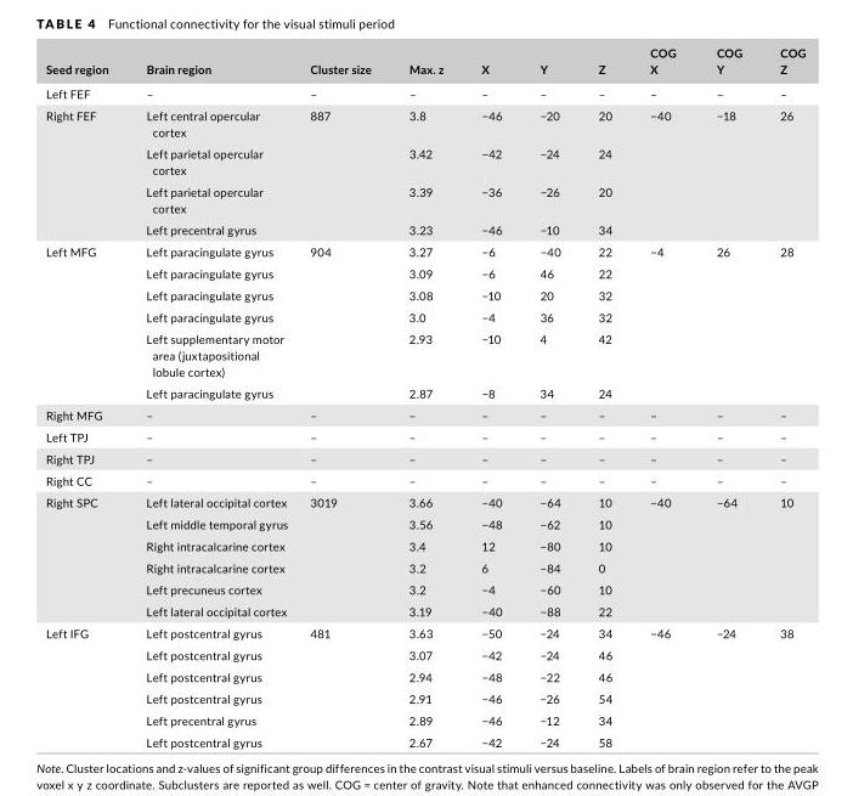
<table><thead><tr><td>Seed region</td><td>Brain region</td><td>Cluster size</td><td>Max. z</td><td>X</td><td>Y</td><td>Z</td><td>COG X</td><td>COG Y</td><td>COG Z</td></tr></thead><tbody><tr><td>Left FEF</td><td>–</td><td>–</td><td>–</td><td>–</td><td>–</td><td>–</td><td>–</td><td>–</td><td>–</td></tr><tr><td rowspan="4">Right FEF</td><td>Left central opercular cortex</td><td>887</td><td>3.8</td><td>−46</td><td>−20</td><td>20</td><td>−40</td><td>−18</td><td>26</td></tr><tr><td>Left parietal opercular cortex</td><td></td><td>3.42</td><td>−42</td><td>−24</td><td>24</td><td></td><td></td><td></td></tr><tr><td>Left parietal opercular cortex</td><td></td><td>3.39</td><td>−36</td><td>−26</td><td>20</td><td></td><td></td><td></td></tr><tr><td>Left precentral gyrus</td><td></td><td>3.23</td><td>−46</td><td>−10</td><td>34</td><td></td><td></td><td></td></tr><tr><td rowspan="6">Left MFG</td><td>Left paracingulate gyrus</td><td>904</td><td>3.27</td><td>−6</td><td>−40</td><td>22</td><td>−4</td><td>26</td><td>28</td></tr><tr><td>Left paracingulate gyrus</td><td></td><td>3.09</td><td>−6</td><td>46</td><td>22</td><td></td><td></td><td></td></tr><tr><td>Left paracingulate gyrus</td><td></td><td>3.08</td><td>−10</td><td>20</td><td>32</td><td></td><td></td><td></td></tr><tr><td>Left paracingulate gyrus</td><td></td><td>3.0</td><td>−4</td><td>36</td><td>32</td><td></td><td></td><td></td></tr><tr><td>Left supplementary motor area (juxtapositional lobule cortex)</td><td></td><td>2.93</td><td>−10</td><td>4</td><td>42</td><td></td><td></td><td></td></tr><tr><td>Left paracingulate gyrus</td><td></td><td>2.87</td><td>−8</td><td>34</td><td>24</td><td></td><td></td><td></td></tr><tr><td>Right MFG</td><td>–</td><td>–</td><td>–</td><td>–</td><td>–</td><td>–</td><td>–</td><td>–</td><td>–</td></tr><tr><td>Left TPJ</td><td>–</td><td>–</td><td>–</td><td>–</td><td>–</td><td>–</td><td>–</td><td>–</td><td>–</td></tr><tr><td>Right TPJ</td><td>–</td><td>–</td><td>–</td><td>–</td><td>–</td><td>–</td><td>–</td><td>–</td><td>–</td></tr><tr><td>Right CC</td><td>–</td><td>–</td><td>–</td><td>–</td><td>–</td><td>–</td><td>–</td><td>–</td><td>–</td></tr><tr><td rowspan="6">Right SPC</td><td>Left lateral occipital cortex</td><td>3019</td><td>3.66</td><td>−40</td><td>−64</td><td>10</td><td>−40</td><td>−64</td><td>10</td></tr><tr><td>Left middle temporal gyrus</td><td></td><td>3.56</td><td>−48</td><td>−62</td><td>10</td><td></td><td></td><td></td></tr><tr><td>Right intracalcarine cortex</td><td></td><td>3.4</td><td>12</td><td>−80</td><td>10</td><td></td><td></td><td></td></tr><tr><td>Right intracalcarine cortex</td><td></td><td>3.2</td><td>6</td><td>−84</td><td>0</td><td></td><td></td><td></td></tr><tr><td>Left precuneus cortex</td><td></td><td>3.2</td><td>−4</td><td>−60</td><td>10</td><td></td><td></td><td></td></tr><tr><td>Left lateral occipital cortex</td><td></td><td>3.19</td><td>−40</td><td>−88</td><td>22</td><td></td><td></td><td></td></tr><tr><td rowspan="6">Left IFG</td><td>Left postcentral gyrus</td><td>481</td><td>3.63</td><td>−50</td><td>−24</td><td>34</td><td>−46</td><td>−24</td><td>38</td></tr><tr><td>Left postcentral gyrus</td><td></td><td>3.07</td><td>−42</td><td>−24</td><td>46</td><td></td><td></td><td></td></tr><tr><td>Left postcentral gyrus</td><td></td><td>2.94</td><td>−48</td><td>−22</td><td>46</td><td></td><td></td><td></td></tr><tr><td>Left postcentral gyrus</td><td></td><td>2.91</td><td>−46</td><td>−26</td><td>54</td><td></td><td></td><td></td></tr><tr><td>Left precentral gyrus</td><td></td><td>2.89</td><td>−46</td><td>−12</td><td>34</td><td></td><td></td><td></td></tr><tr><td>Left postcentral gyrus</td><td></td><td>2.67</td><td>−42</td><td>−24</td><td>58</td><td></td><td></td><td></td></tr></tbody></table>